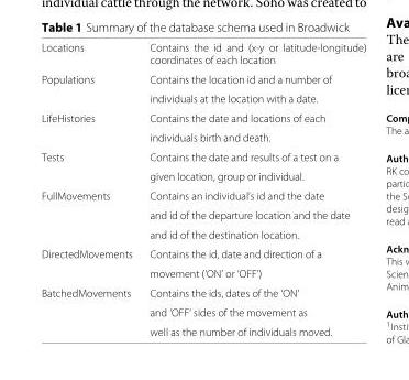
<table><tbody><tr><td>Locations</td><td>Contains the id and (x-y or latitude-longitude) coordinates of each location</td></tr><tr><td rowspan="2">Populations</td><td>Contains the location id and a number of</td></tr><tr><td>individuals at the location with a date.</td></tr><tr><td rowspan="2">LifeHistories</td><td>Contains the date and locations of each</td></tr><tr><td>individuals birth and death.</td></tr><tr><td rowspan="2">Tests</td><td>Contains the date and results of a test on a</td></tr><tr><td>given location, group or individual.</td></tr><tr><td rowspan="3">FullMovements</td><td>Contains an individual’s id and the date</td></tr><tr><td>and id of the departure location and the date</td></tr><tr><td>and id of the destination location.</td></tr><tr><td rowspan="2">DirectedMovements</td><td>Contains the id, date and direction of a</td></tr><tr><td>movement (‘ON’ or ‘OFF’)</td></tr><tr><td rowspan="3">BatchedMovements</td><td>Contains the ids, dates of the ‘ON’</td></tr><tr><td>and ‘OFF’ sides of the movement as</td></tr><tr><td>well as the number of individuals moved.</td></tr></tbody></table>